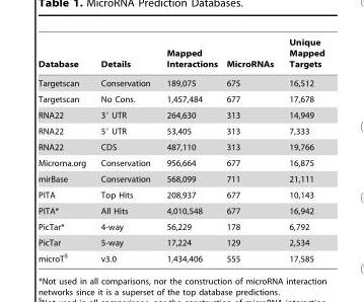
<table><thead><tr><td>Database</td><td>Details</td><td>Mapped Interactions</td><td>MicroRNAs</td><td>Unique Mapped Targets</td></tr></thead><tbody><tr><td>Targetscan</td><td>Conservation</td><td>189,075</td><td>675</td><td>16,512</td></tr><tr><td>Targetscan</td><td>No Cons.</td><td>1,457,484</td><td>677</td><td>17,678</td></tr><tr><td>RNA22</td><td>3′ UTR</td><td>264,630</td><td>313</td><td>14,949</td></tr><tr><td>RNA22</td><td>5′ UTR</td><td>53,405</td><td>313</td><td>7,333</td></tr><tr><td>RNA22</td><td>CDS</td><td>487,110</td><td>313</td><td>19,766</td></tr><tr><td>Microrna.org</td><td>Conservation</td><td>956,664</td><td>677</td><td>16,875</td></tr><tr><td>mirBase</td><td>Conservation</td><td>568,099</td><td>711</td><td>21,111</td></tr><tr><td>PITA</td><td>Top Hits</td><td>208,937</td><td>677</td><td>10,143</td></tr><tr><td>PITA*</td><td>All Hits</td><td>4,010,548</td><td>677</td><td>16,942</td></tr><tr><td>PicTar*</td><td>4-way</td><td>56,229</td><td>178</td><td>6,792</td></tr><tr><td>PicTar</td><td>5-way</td><td>17,224</td><td>129</td><td>2,534</td></tr><tr><td>microT$</td><td>v3.0</td><td>1,434,406</td><td>555</td><td>17,585</td></tr></tbody></table>